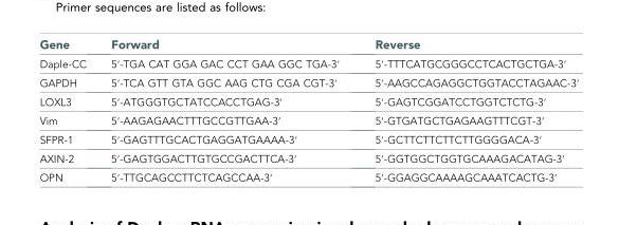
<table><thead><tr><td>Gene</td><td>Forward</td><td>Reverse</td></tr></thead><tbody><tr><td>Daple-CC</td><td>5′-TGA CAT GGA GAC CCT GAA GGC TGA-3′</td><td>5′-TTTCATGCGGGCCTCACTGCTGA-3′</td></tr><tr><td>GAPDH</td><td>5′-TCA GTT GTA GGC AAG CTG CGA CGT-3′</td><td>5′-AAGCCAGAGGCTGGTACCTAGAAC-3′</td></tr><tr><td>LOXL3</td><td>5′-ATGGGTGCTATCCACCTGAG-3′</td><td>5′-GAGTCGGATCCTGGTCTCTG-3′</td></tr><tr><td>Vim</td><td>5′-AAGAGAACTTTGCCGTTGAA-3′</td><td>5′-GTGATGCTGAGAAGTTTCGT-3′</td></tr><tr><td>SFPR-1</td><td>5′-GAGTTTGCACTGAGGATGAAAA-3′</td><td>5′-GCTTCTTCTTCTTGGGGACA-3′</td></tr><tr><td>AXIN-2</td><td>5′-GAGTGGACTTGTGCCGACTTCA-3′</td><td>5′-GGTGGCTGGTGCAAAGACATAG-3′</td></tr><tr><td>OPN</td><td>5′-TTGCAGCCTTCTCAGCCAA-3′</td><td>5′-GGAGGCAAAAGCAAATCACTG-3′</td></tr></tbody></table>